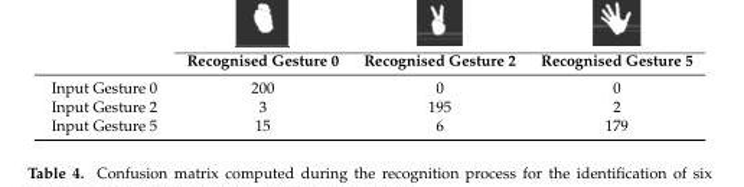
<table><thead><tr><td></td><td>Recognised Gesture 0</td><td>Recognised Gesture 2</td><td>Recognised Gesture 5</td></tr></thead><tbody><tr><td>Input Gesture 0</td><td>200</td><td>0</td><td>0</td></tr><tr><td>Input Gesture 2</td><td>3</td><td>195</td><td>2</td></tr><tr><td>Input Gesture 5</td><td>15</td><td>6</td><td>179</td></tr></tbody></table>